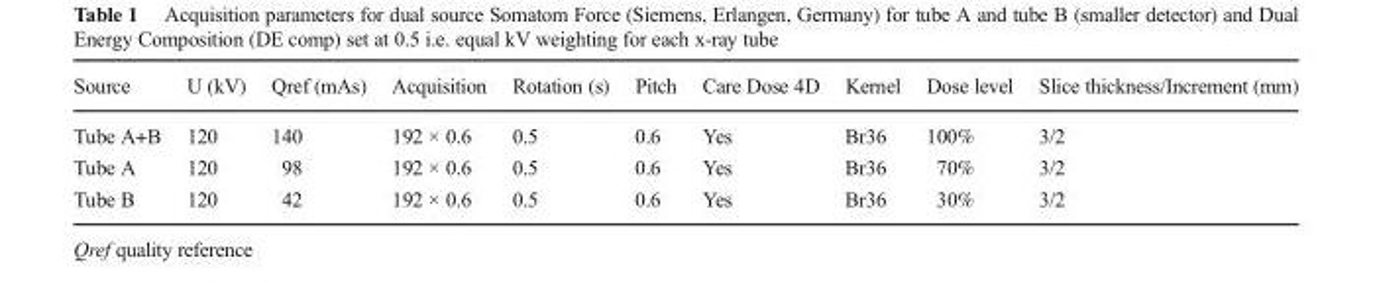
<table><thead><tr><td>Source</td><td>U (kV)</td><td>Qref (mAs)</td><td>Acquisition</td><td>Rotation (s)</td><td>Pitch</td><td>Care Dose 4D</td><td>Kernel</td><td>Dose level</td><td>Slice thickness/Increment (mm)</td></tr></thead><tbody><tr><td>Tube A+B</td><td>120</td><td>140</td><td>192 × 0.6</td><td>0.5</td><td>0.6</td><td>Yes</td><td>Br36</td><td>100%</td><td>3/2</td></tr><tr><td>Tube A</td><td>120</td><td>98</td><td>192 × 0.6</td><td>0.5</td><td>0.6</td><td>Yes</td><td>Br36</td><td>70%</td><td>3/2</td></tr><tr><td>Tube B</td><td>120</td><td>42</td><td>192 × 0.6</td><td>0.5</td><td>0.6</td><td>Yes</td><td>Br36</td><td>30%</td><td>3/2</td></tr></tbody></table>